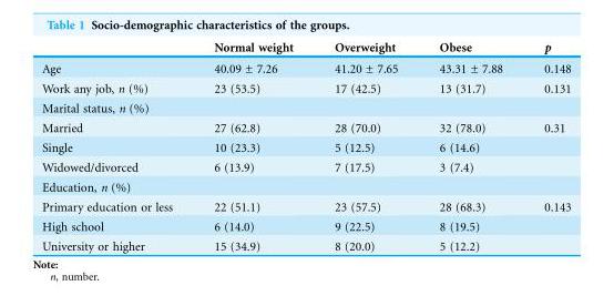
<table><thead><tr><td></td><td>Normal weight</td><td>Overweight</td><td>Obese</td><td>p</td></tr></thead><tbody><tr><td>Age</td><td>40.09 ± 7.26</td><td>41.20 ± 7.65</td><td>43.31 ± 7.88</td><td>0.148</td></tr><tr><td>Work any job, n (%)</td><td>23 (53.5)</td><td>17 (42.5)</td><td>13 (31.7)</td><td>0.131</td></tr><tr><td colspan="5">Marital status, n (%)</td></tr><tr><td>Married</td><td>27 (62.8)</td><td>28 (70.0)</td><td>32 (78.0)</td><td>0.31</td></tr><tr><td>Single</td><td>10 (23.3)</td><td>5 (12.5)</td><td>6 (14.6)</td><td></td></tr><tr><td>Widowed/divorced</td><td>6 (13.9)</td><td>7 (17.5)</td><td>3 (7.4)</td><td></td></tr><tr><td colspan="5">Education, n (%)</td></tr><tr><td>Primary education or less</td><td>22 (51.1)</td><td>23 (57.5)</td><td>28 (68.3)</td><td>0.143</td></tr><tr><td>High school</td><td>6 (14.0)</td><td>9 (22.5)</td><td>8 (19.5)</td><td></td></tr><tr><td>University or higher</td><td>15 (34.9)</td><td>8 (20.0)</td><td>5 (12.2)</td><td></td></tr></tbody></table>